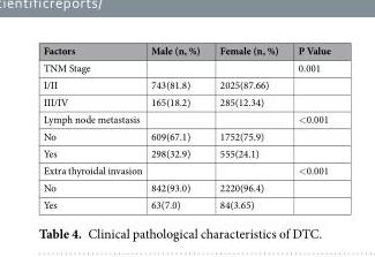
<table><thead><tr><td>Factors</td><td>Male (n, %)</td><td>Female (n, %)</td><td>P Value</td></tr></thead><tbody><tr><td>TNM Stage</td><td></td><td></td><td>0.001</td></tr><tr><td>I/II</td><td>743(81.8)</td><td>2025(87.66)</td><td></td></tr><tr><td>III/IV</td><td>165(18.2)</td><td>285(12.34)</td><td></td></tr><tr><td>Lymph node metastasis</td><td></td><td></td><td>&lt;0.001</td></tr><tr><td>No</td><td>609(67.1)</td><td>1752(75.9)</td><td></td></tr><tr><td>Yes</td><td>298(32.9)</td><td>555(24.1)</td><td></td></tr><tr><td>Extra thyroidal invasion</td><td></td><td></td><td>&lt;0.001</td></tr><tr><td>No</td><td>842(93.0)</td><td>2220(96.4)</td><td></td></tr><tr><td>Yes</td><td>63(7.0)</td><td>84(3.65)</td><td></td></tr></tbody></table>